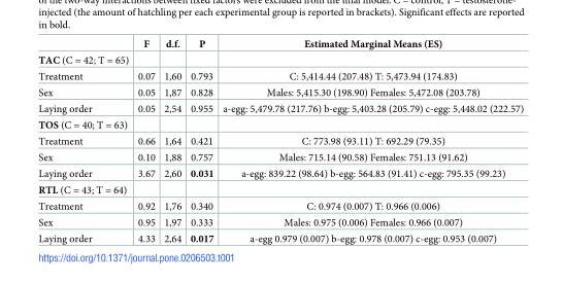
<table><thead><tr><td></td><td>F</td><td>d.f.</td><td>P</td><td>Estimated Marginal Means (ES)</td></tr></thead><tbody><tr><td colspan="5">TAC (C = 42; T = 65)</td></tr><tr><td>Treatment</td><td>0.07</td><td>1,60</td><td>0.793</td><td>C: 5,414.44 (207.48) T: 5,473.94 (174.83)</td></tr><tr><td>Sex</td><td>0.05</td><td>1,87</td><td>0.828</td><td>Males: 5,415.30 (198.90) Females: 5,472.08 (203.78)</td></tr><tr><td>Laying order</td><td>0.05</td><td>2,54</td><td>0.955</td><td>a-egg: 5,479.78 (217.76) b-egg: 5,403.28 (205.79) c-egg: 5,448.02 (222.57)</td></tr><tr><td colspan="5">TOS (C = 40; T = 63)</td></tr><tr><td>Treatment</td><td>0.66</td><td>1,64</td><td>0.421</td><td>C: 773.98 (93.11) T: 692.29 (79.35)</td></tr><tr><td>Sex</td><td>0.10</td><td>1,88</td><td>0.757</td><td>Males: 715.14 (90.58) Females: 751.13 (91.62)</td></tr><tr><td>Laying order</td><td>3.67</td><td>2,60</td><td>0.031</td><td>a-egg: 839.22 (98.64) b-egg: 564.83 (91.41) c-egg: 795.35 (99.23)</td></tr><tr><td colspan="5">RTL (C = 43; T = 64)</td></tr><tr><td>Treatment</td><td>0.92</td><td>1,76</td><td>0.340</td><td>C: 0.974 (0.007) T: 0.966 (0.006)</td></tr><tr><td>Sex</td><td>0.95</td><td>1,97</td><td>0.333</td><td>Males: 0.975 (0.006) Females: 0.966 (0.007)</td></tr><tr><td>Laying order</td><td>4.33</td><td>2,64</td><td>0.017</td><td>a-egg 0.979 (0.007) b-egg: 0.978 (0.007) c-egg: 0.953 (0.007)</td></tr></tbody></table>